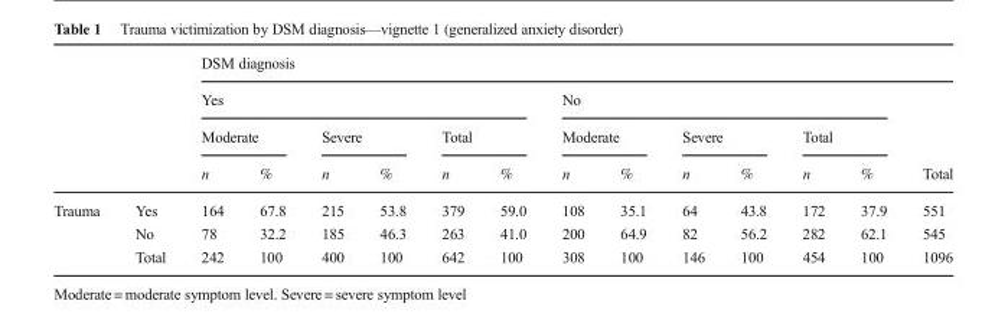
<table><thead><tr><td rowspan="4"></td><td rowspan="4"></td><td colspan="13">DSM diagnosis</td></tr><tr><td colspan="6">Yes</td><td colspan="6">No</td><td rowspan="3">Total</td></tr><tr><td colspan="2">Moderate</td><td colspan="2">Severe</td><td colspan="2">Total</td><td colspan="2">Moderate</td><td colspan="2">Severe</td><td colspan="2">Total</td></tr><tr><td>n</td><td>%</td><td>n</td><td>%</td><td>n</td><td>%</td><td>n</td><td>%</td><td>n</td><td>%</td><td>n</td><td>%</td></tr></thead><tbody><tr><td rowspan="3">Trauma</td><td>Yes</td><td>164</td><td>67.8</td><td>215</td><td>53.8</td><td>379</td><td>59.0</td><td>108</td><td>35.1</td><td>64</td><td>43.8</td><td>172</td><td>37.9</td><td>551</td></tr><tr><td>No</td><td>78</td><td>32.2</td><td>185</td><td>46.3</td><td>263</td><td>41.0</td><td>200</td><td>64.9</td><td>82</td><td>56.2</td><td>282</td><td>62.1</td><td>545</td></tr><tr><td>Total</td><td>242</td><td>100</td><td>400</td><td>100</td><td>642</td><td>100</td><td>308</td><td>100</td><td>146</td><td>100</td><td>454</td><td>100</td><td>1096</td></tr></tbody></table>